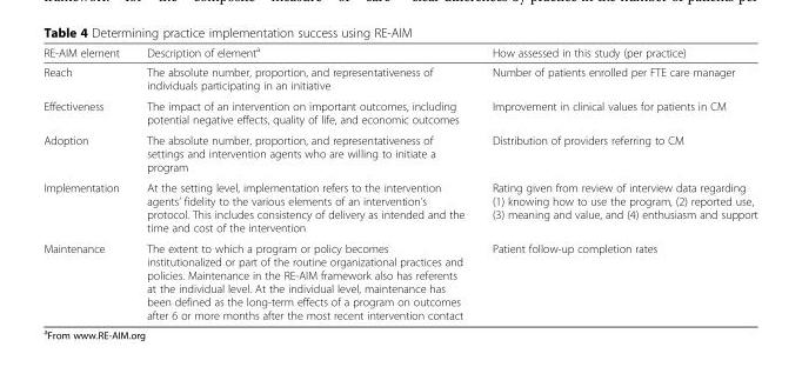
<table><thead><tr><td>RE-AIM element</td><td>Description of element<sup>a</sup></td><td>How assessed in this study (per practice)</td></tr></thead><tbody><tr><td>Reach</td><td>The absolute number, proportion, and representativeness of individuals participating in an initiative</td><td>Number of patients enrolled per FTE care manager</td></tr><tr><td>Effectiveness</td><td>The impact of an intervention on important outcomes, including potential negative effects, quality of life, and economic outcomes</td><td>Improvement in clinical values for patients in CM</td></tr><tr><td>Adoption</td><td>The absolute number, proportion, and representativeness of settings and intervention agents who are willing to initiate a program</td><td>Distribution of providers referring to CM</td></tr><tr><td>Implementation</td><td>At the setting level, implementation refers to the intervention agents’ fidelity to the various elements of an intervention’s protocol. This includes consistency of delivery as intended and the time and cost of the intervention</td><td>Rating given from review of interview data regarding (1) knowing how to use the program, (2) reported use, (3) meaning and value, and (4) enthusiasm and support</td></tr><tr><td>Maintenance</td><td>The extent to which a program or policy becomes institutionalized or part of the routine organizational practices and policies. Maintenance in the RE-AIM framework also has referents at the individual level. At the individual level, maintenance has been defined as the long-term effects of a program on outcomes after 6 or more months after the most recent intervention contact</td><td>Patient follow-up completion rates</td></tr></tbody></table>